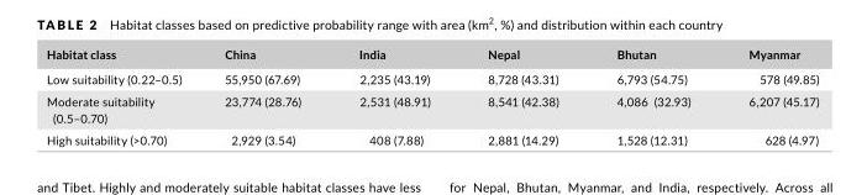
<table><thead><tr><td>Habitat class</td><td>China</td><td>India</td><td>Nepal</td><td>Bhutan</td><td>Myanmar</td></tr></thead><tbody><tr><td>Low suitability (0.22–0.5)</td><td>55,950 (67.69)</td><td>2,235 (43.19)</td><td>8,728 (43.31)</td><td>6,793 (54.75)</td><td>578 (49.85)</td></tr><tr><td>Moderate suitability (0.5–0.70)</td><td>23,774 (28.76)</td><td>2,531 (48.91)</td><td>8,541 (42.38)</td><td>4,086 (32.93)</td><td>6,207 (45.17)</td></tr><tr><td>High suitability (&gt;0.70)</td><td>2,929 (3.54)</td><td>408 (7.88)</td><td>2,881 (14.29)</td><td>1,528 (12.31)</td><td>628 (4.97)</td></tr></tbody></table>